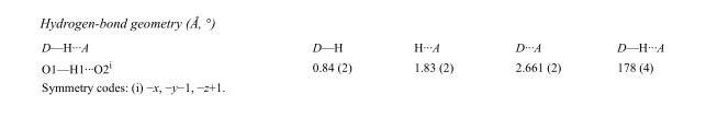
<table><tbody><tr><td>D—H···A</td><td>D—H</td><td>H···A</td><td>D···A</td><td>D—H···A</td></tr><tr><td>O1—H1···O2<sup>i</sup></td><td>0.84 (2)</td><td>1.83 (2)</td><td>2.661 (2)</td><td>178 (4)</td></tr></tbody></table>